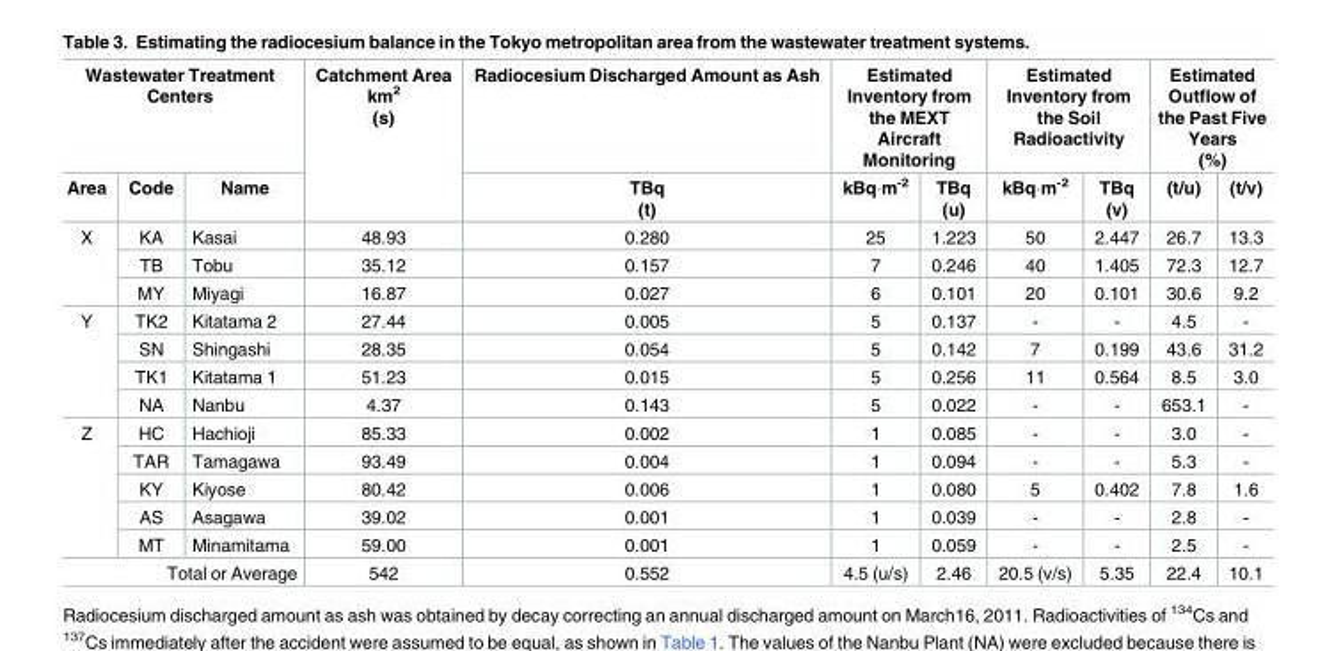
<table><thead><tr><td colspan="3">Wastewater Treatment Centers</td><td rowspan="2">Catchment Area km<sup>2</sup> (s)</td><td rowspan="2">Radiocesium Discharged Amount as Ash TBq (t)</td><td colspan="2">Estimated Inventory from the MEXT Aircraft Monitoring</td><td colspan="2">Estimated Inventory from the Soil Radioactivity</td><td colspan="2">Estimated Outflow of the Past Five Years (%)</td></tr><tr><td>Area</td><td>Code</td><td>Name</td><td>kBq·m<sup>-2</sup></td><td>TBq (u)</td><td>kBq·m<sup>-2</sup></td><td>TBq (v)</td><td>(t/u)</td><td>(t/v)</td></tr></thead><tbody><tr><td rowspan="3">X</td><td>KA</td><td>Kasai</td><td>48.93</td><td>0.280</td><td>25</td><td>1.223</td><td>50</td><td>2.447</td><td>26.7</td><td>13.3</td></tr><tr><td>TB</td><td>Tobu</td><td>35.12</td><td>0.157</td><td>7</td><td>0.246</td><td>40</td><td>1.405</td><td>72.3</td><td>12.7</td></tr><tr><td>MY</td><td>Miyagi</td><td>16.87</td><td>0.027</td><td>6</td><td>0.101</td><td>20</td><td>0.101</td><td>30.6</td><td>9.2</td></tr><tr><td rowspan="4">Y</td><td>TK2</td><td>Kitatama 2</td><td>27.44</td><td>0.005</td><td>5</td><td>0.137</td><td>-</td><td>-</td><td>4.5</td><td>-</td></tr><tr><td>SN</td><td>Shingashi</td><td>28.35</td><td>0.054</td><td>5</td><td>0.142</td><td>7</td><td>0.199</td><td>43.6</td><td>31.2</td></tr><tr><td>TK1</td><td>Kitatama 1</td><td>51.23</td><td>0.015</td><td>5</td><td>0.256</td><td>11</td><td>0.564</td><td>8.5</td><td>3.0</td></tr><tr><td>NA</td><td>Nanbu</td><td>4.37</td><td>0.143</td><td>5</td><td>0.022</td><td>-</td><td>-</td><td>653.1</td><td>-</td></tr><tr><td rowspan="5">Z</td><td>HC</td><td>Hachioji</td><td>85.33</td><td>0.002</td><td>1</td><td>0.085</td><td>-</td><td>-</td><td>3.0</td><td>-</td></tr><tr><td>TAR</td><td>Tamagawa</td><td>93.49</td><td>0.004</td><td>1</td><td>0.094</td><td>-</td><td>-</td><td>5.3</td><td>-</td></tr><tr><td>KY</td><td>Kiyose</td><td>80.42</td><td>0.006</td><td>1</td><td>0.080</td><td>5</td><td>0.402</td><td>7.8</td><td>1.6</td></tr><tr><td>AS</td><td>Asagawa</td><td>39.02</td><td>0.001</td><td>1</td><td>0.039</td><td>-</td><td>-</td><td>2.8</td><td>-</td></tr><tr><td>MT</td><td>Minamitama</td><td>59.00</td><td>0.001</td><td>1</td><td>0.059</td><td>-</td><td>-</td><td>2.5</td><td>-</td></tr><tr><td colspan="3">Total or Average</td><td>542</td><td>0.552</td><td>4.5 (u/s)</td><td>2.46</td><td>20.5 (v/s)</td><td>5.35</td><td>22.4</td><td>10.1</td></tr></tbody></table>